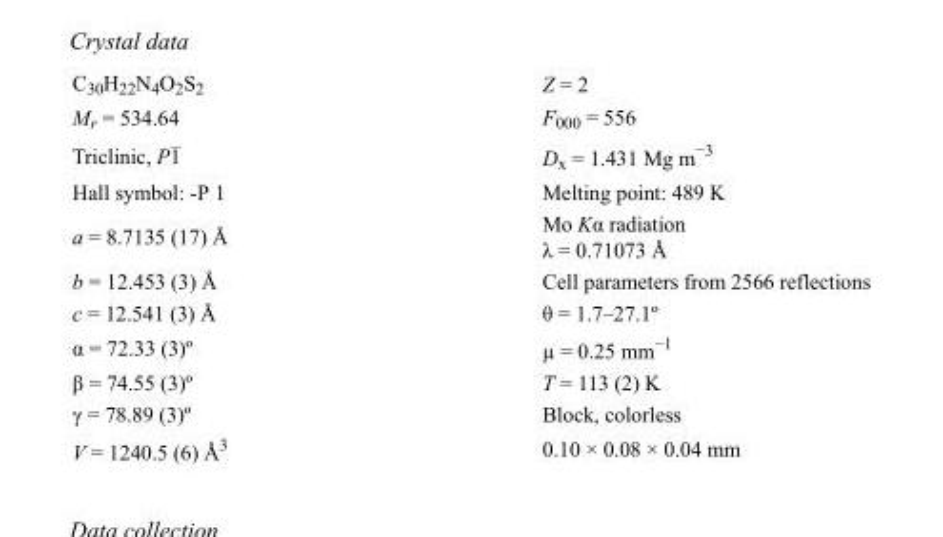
<table><tbody><tr><td>C<sub>30</sub>H<sub>22</sub>N<sub>4</sub>O<sub>2</sub>S<sub>2</sub></td><td>Z = 2</td></tr><tr><td>M<sub>r</sub> = 534.64</td><td>F<sub>000</sub> = 556</td></tr><tr><td>Triclinic, P1</td><td>D<sub>x</sub> = 1.431 Mg m<sup>−3</sup></td></tr><tr><td>Hall symbol: -P 1</td><td>Melting point: 489 K</td></tr><tr><td>a = 8.7135 (17) Å</td><td>Mo Kα radiation λ = 0.71073 Å</td></tr><tr><td>b = 12.453 (3) Å</td><td>Cell parameters from 2566 reflections</td></tr><tr><td>c = 12.541 (3) Å</td><td>θ = 1.7–27.1º</td></tr><tr><td>α = 72.33 (3)º</td><td>µ = 0.25 mm<sup>−1</sup></td></tr><tr><td>β = 74.55 (3)º</td><td>T = 113 (2) K</td></tr><tr><td>γ = 78.89 (3)º</td><td>Block, colorless</td></tr><tr><td>V = 1240.5 (6) Å<sup>3</sup></td><td>0.10 × 0.08 × 0.04 mm</td></tr></tbody></table>